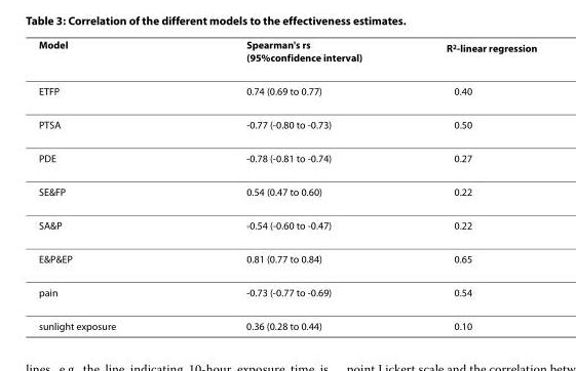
<table><thead><tr><td>Model</td><td>Spearman&#x27;s rs (95%confidence interval)</td><td>R<sup>2</sup>-linear regression</td></tr></thead><tbody><tr><td>ETFP</td><td>0.74 (0.69 to 0.77)</td><td>0.40</td></tr><tr><td>PTSA</td><td>-0.77 (-0.80 to -0.73)</td><td>0.50</td></tr><tr><td>PDE</td><td>-0.78 (-0.81 to -0.74)</td><td>0.27</td></tr><tr><td>SE&amp;FP</td><td>0.54 (0.47 to 0.60)</td><td>0.22</td></tr><tr><td>SA&amp;P</td><td>-0.54 (-0.60 to -0.47)</td><td>0.22</td></tr><tr><td>E&amp;P&amp;EP</td><td>0.81 (0.77 to 0.84)</td><td>0.65</td></tr><tr><td>pain</td><td>-0.73 (-0.77 to -0.69)</td><td>0.54</td></tr><tr><td>sunlight exposure</td><td>0.36 (0.28 to 0.44)</td><td>0.10</td></tr></tbody></table>